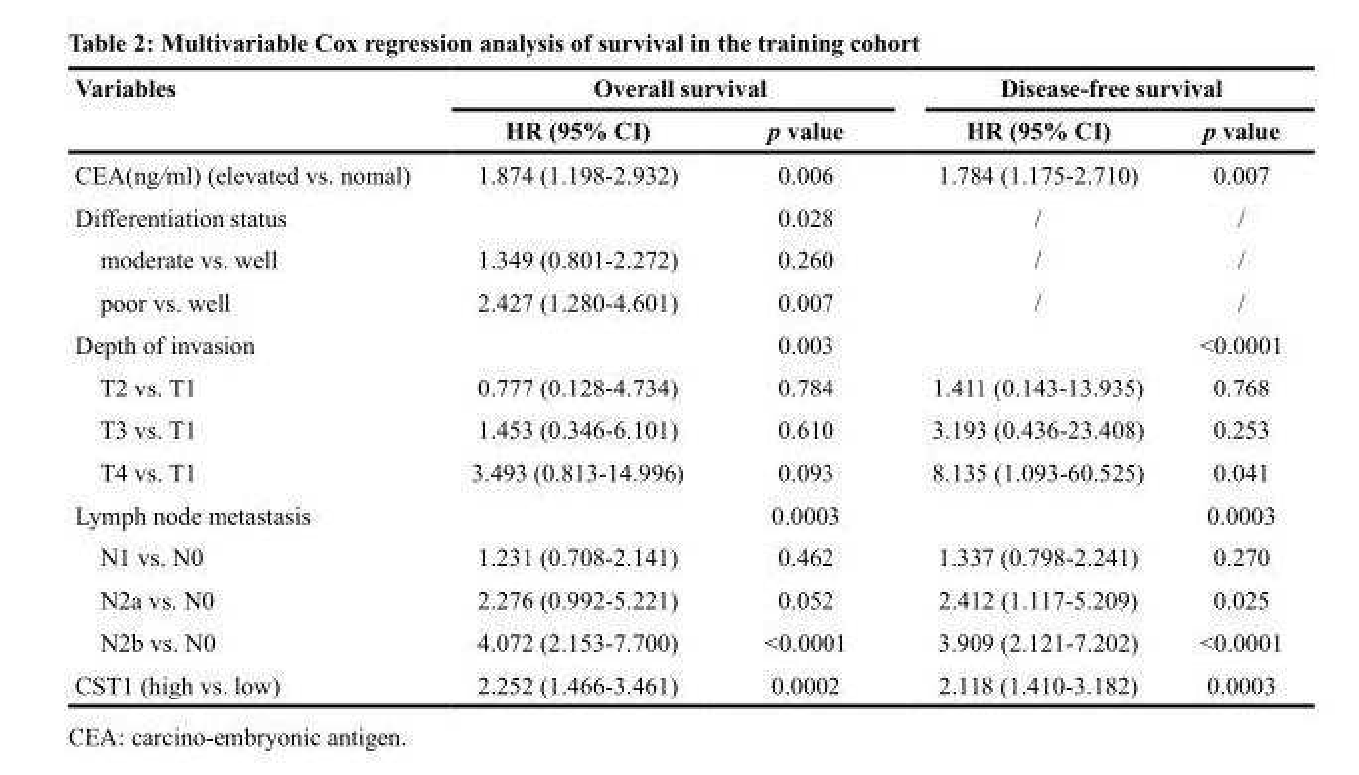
<table><thead><tr><td rowspan="2">Variables</td><td colspan="2">Overall survival</td><td colspan="2">Disease-free survival</td></tr><tr><td>HR (95% CI)</td><td>p value</td><td>HR (95% CI)</td><td>p value</td></tr></thead><tbody><tr><td>CEA(ng/ml) (elevated vs. nomal)</td><td>1.874 (1.198-2.932)</td><td>0.006</td><td>1.784 (1.175-2.710)</td><td>0.007</td></tr><tr><td>Differentiation status</td><td></td><td>0.028</td><td>/</td><td>/</td></tr><tr><td>moderate vs. well</td><td>1.349 (0.801-2.272)</td><td>0.260</td><td>/</td><td>/</td></tr><tr><td>poor vs. well</td><td>2.427 (1.280-4.601)</td><td>0.007</td><td>/</td><td>/</td></tr><tr><td>Depth of invasion</td><td></td><td>0.003</td><td></td><td>&lt;0.0001</td></tr><tr><td>T2 vs. T1</td><td>0.777 (0.128-4.734)</td><td>0.784</td><td>1.411 (0.143-13.935)</td><td>0.768</td></tr><tr><td>T3 vs. T1</td><td>1.453 (0.346-6.101)</td><td>0.610</td><td>3.193 (0.436-23.408)</td><td>0.253</td></tr><tr><td>T4 vs. T1</td><td>3.493 (0.813-14.996)</td><td>0.093</td><td>8.135 (1.093-60.525)</td><td>0.041</td></tr><tr><td>Lymph node metastasis</td><td></td><td>0.0003</td><td></td><td>0.0003</td></tr><tr><td>N1 vs. N0</td><td>1.231 (0.708-2.141)</td><td>0.462</td><td>1.337 (0.798-2.241)</td><td>0.270</td></tr><tr><td>N2a vs. N0</td><td>2.276 (0.992-5.221)</td><td>0.052</td><td>2.412 (1.117-5.209)</td><td>0.025</td></tr><tr><td>N2b vs. N0</td><td>4.072 (2.153-7.700)</td><td>&lt;0.0001</td><td>3.909 (2.121-7.202)</td><td>&lt;0.0001</td></tr><tr><td>CST1 (high vs. low)</td><td>2.252 (1.466-3.461)</td><td>0.0002</td><td>2.118 (1.410-3.182)</td><td>0.0003</td></tr></tbody></table>